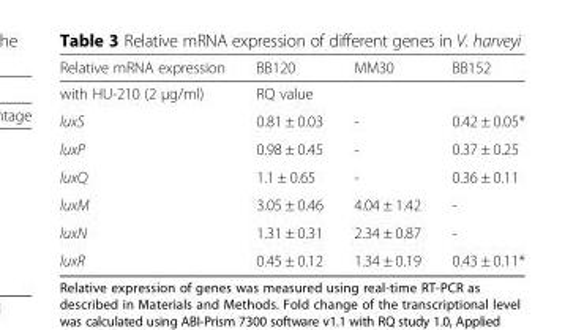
<table><thead><tr><td>Relative mRNA expression</td><td>BB120</td><td>MM30</td><td>BB152</td></tr></thead><tbody><tr><td>with HU-210 (2 μg/ml)</td><td colspan="3">RQ value</td></tr><tr><td>luxS</td><td>0.81 ± 0.03</td><td>-</td><td>0.42 ± 0.05*</td></tr><tr><td>luxP</td><td>0.98 ± 0.45</td><td>-</td><td>0.37 ± 0.25</td></tr><tr><td>luxQ</td><td>1.1 ± 0.65</td><td>-</td><td>0.36 ± 0.11</td></tr><tr><td>luxM</td><td>3.05 ± 0.46</td><td>4.04 ± 1.42</td><td>-</td></tr><tr><td>luxN</td><td>1.31 ± 0.31</td><td>2.34 ± 0.87</td><td>-</td></tr><tr><td>luxR</td><td>0.45 ± 0.12</td><td>1.34 ± 0.19</td><td>0.43 ± 0.11*</td></tr></tbody></table>